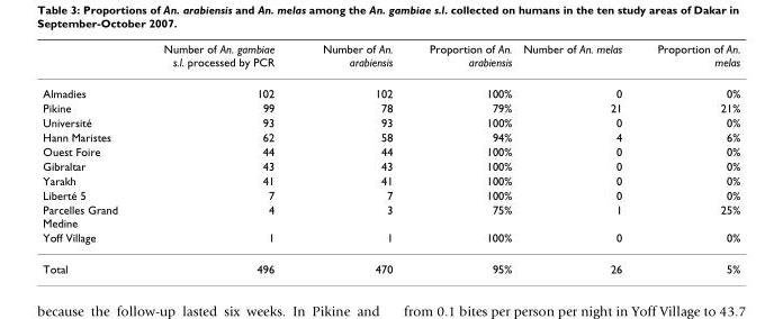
<table><thead><tr><td></td><td>Number of An. gambiae s.l. processed by PCR</td><td>Number of An. arabiensis</td><td>Proportion of An. arabiensis</td><td>Number of An. melas</td><td>Proportion of An. melas</td></tr></thead><tbody><tr><td>Almadies</td><td>102</td><td>102</td><td>100%</td><td>0</td><td>0%</td></tr><tr><td>Pikine</td><td>99</td><td>78</td><td>79%</td><td>21</td><td>21%</td></tr><tr><td>Université</td><td>93</td><td>93</td><td>100%</td><td>0</td><td>0%</td></tr><tr><td>Hann Maristes</td><td>62</td><td>58</td><td>94%</td><td>4</td><td>6%</td></tr><tr><td>Ouest Foire</td><td>44</td><td>44</td><td>100%</td><td>0</td><td>0%</td></tr><tr><td>Gibraltar</td><td>43</td><td>43</td><td>100%</td><td>0</td><td>0%</td></tr><tr><td>Yarakh</td><td>41</td><td>41</td><td>100%</td><td>0</td><td>0%</td></tr><tr><td>Liberté 5</td><td>7</td><td>7</td><td>100%</td><td>0</td><td>0%</td></tr><tr><td>Parcelles Grand Medine</td><td>4</td><td>3</td><td>75%</td><td>1</td><td>25%</td></tr><tr><td>Yoff Village</td><td>1</td><td>1</td><td>100%</td><td>0</td><td>0%</td></tr><tr><td>Total</td><td>496</td><td>470</td><td>95%</td><td>26</td><td>5%</td></tr></tbody></table>